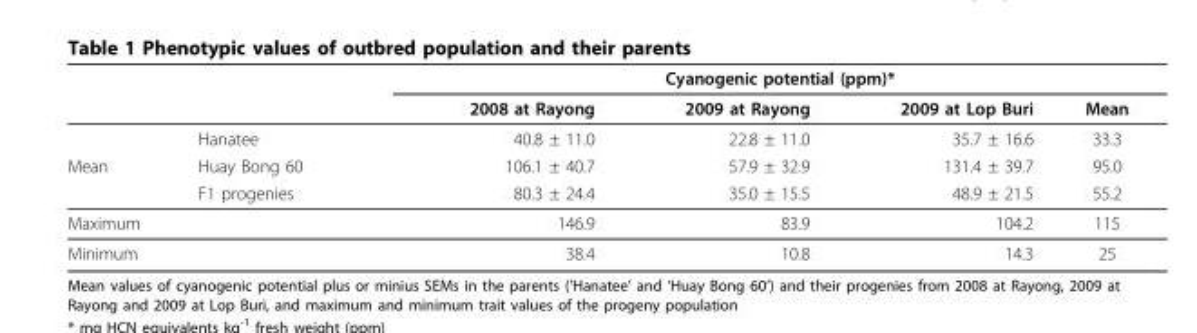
<table><thead><tr><td rowspan="2"></td><td rowspan="2"></td><td colspan="4">Cyanogenic potential (ppm)*</td></tr><tr><td>2008 at Rayong</td><td>2009 at Rayong</td><td>2009 at Lop Buri</td><td>Mean</td></tr></thead><tbody><tr><td></td><td>Hanatee</td><td>40.8 ± 11.0</td><td>22.8 ± 11.0</td><td>35.7 ± 16.6</td><td>33.3</td></tr><tr><td rowspan="2">Mean</td><td>Huay Bong 60</td><td>106.1 ± 40.7</td><td>57.9 ± 32.9</td><td>131.4 ± 39.7</td><td>95.0</td></tr><tr><td>F1 progenies</td><td>80.3 ± 24.4</td><td>35.0 ± 15.5</td><td>48.9 ± 21.5</td><td>55.2</td></tr><tr><td colspan="2">Maximum</td><td>146.9</td><td>83.9</td><td>104.2</td><td>115</td></tr><tr><td colspan="2">Minimum</td><td>38.4</td><td>10.8</td><td>14.3</td><td>25</td></tr></tbody></table>